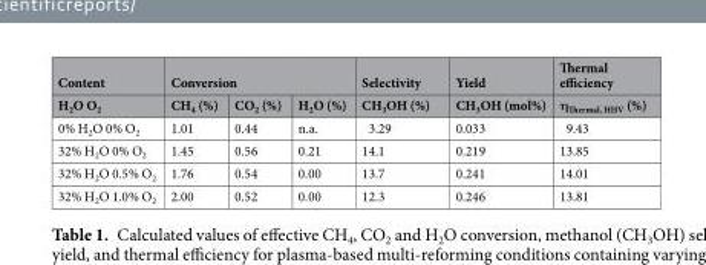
<table><thead><tr><td rowspan="2">Content H<sub>2</sub>O O<sub>2</sub></td><td colspan="3">Conversion</td><td rowspan="2">Selectivity CH<sub>3</sub>OH (%)</td><td rowspan="2">Yield CH<sub>3</sub>OH (mol%)</td><td rowspan="2">Thermal efficiency η<sub>Thermal, HHV</sub> (%)</td></tr><tr><td>CH<sub>4</sub> (%)</td><td>CO<sub>2</sub> (%)</td><td>H<sub>2</sub>O (%)</td></tr></thead><tbody><tr><td>0% H<sub>2</sub>O 0% O<sub>2</sub></td><td>1.01</td><td>0.44</td><td>n.a.</td><td>3.29</td><td>0.033</td><td>9.43</td></tr><tr><td>32% H<sub>2</sub>O 0% O<sub>2</sub></td><td>1.45</td><td>0.56</td><td>0.21</td><td>14.1</td><td>0.219</td><td>13.85</td></tr><tr><td>32% H<sub>2</sub>O 0.5% O<sub>2</sub></td><td>1.76</td><td>0.54</td><td>0.00</td><td>13.7</td><td>0.241</td><td>14.01</td></tr><tr><td>32% H<sub>2</sub>O 1.0% O<sub>2</sub></td><td>2.00</td><td>0.52</td><td>0.00</td><td>12.3</td><td>0.246</td><td>13.81</td></tr></tbody></table>